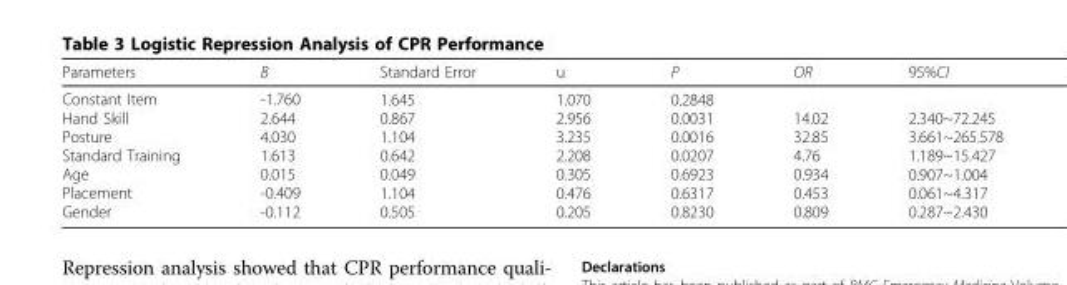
<table><thead><tr><td>Parameters</td><td>B</td><td>Standard Error</td><td>u</td><td>P</td><td>OR</td><td>95%CI</td></tr></thead><tbody><tr><td>Constant Item Hand Skill Posture Standard Training Age Placement Gender</td><td>-1.760 2.644 4.030 1.613 0.015 -0.409 -0.112</td><td>1.645 0.867 1.104 0.642 0.049 1.104 0.505</td><td>1.070 2.956 3.235 2.208 0.305 0.476 0.205</td><td>0.2848 0.0031 0.0016 0.0207 0.6923 0.6317 0.8230</td><td>14.02 32.85 4.76 0.934 0.453 0.809</td><td>2.340~72.245 3.661~265.578 1.189~15.427 0.907~1.004 0.061~4.317 0.287~2.430</td></tr></tbody></table>